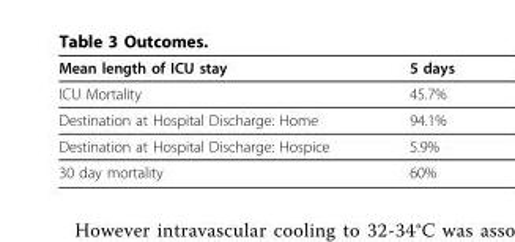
<table><thead><tr><td>Mean length of ICU stay</td><td>5 days</td></tr></thead><tbody><tr><td>ICU Mortality</td><td>45.7%</td></tr><tr><td>Destination at Hospital Discharge: Home</td><td>94.1%</td></tr><tr><td>Destination at Hospital Discharge: Hospice</td><td>5.9%</td></tr><tr><td>30 day mortality</td><td>60%</td></tr></tbody></table>